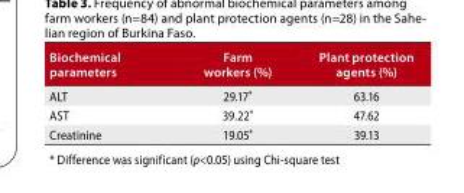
<table><thead><tr><td>Biochemical parameters</td><td>Farm workers (%)</td><td>Plant protection agents (%)</td></tr></thead><tbody><tr><td>ALT</td><td>29.17*</td><td>63.16</td></tr><tr><td>AST</td><td>39.22*</td><td>47.62</td></tr><tr><td>Creatinine</td><td>19.05*</td><td>39.13</td></tr></tbody></table>